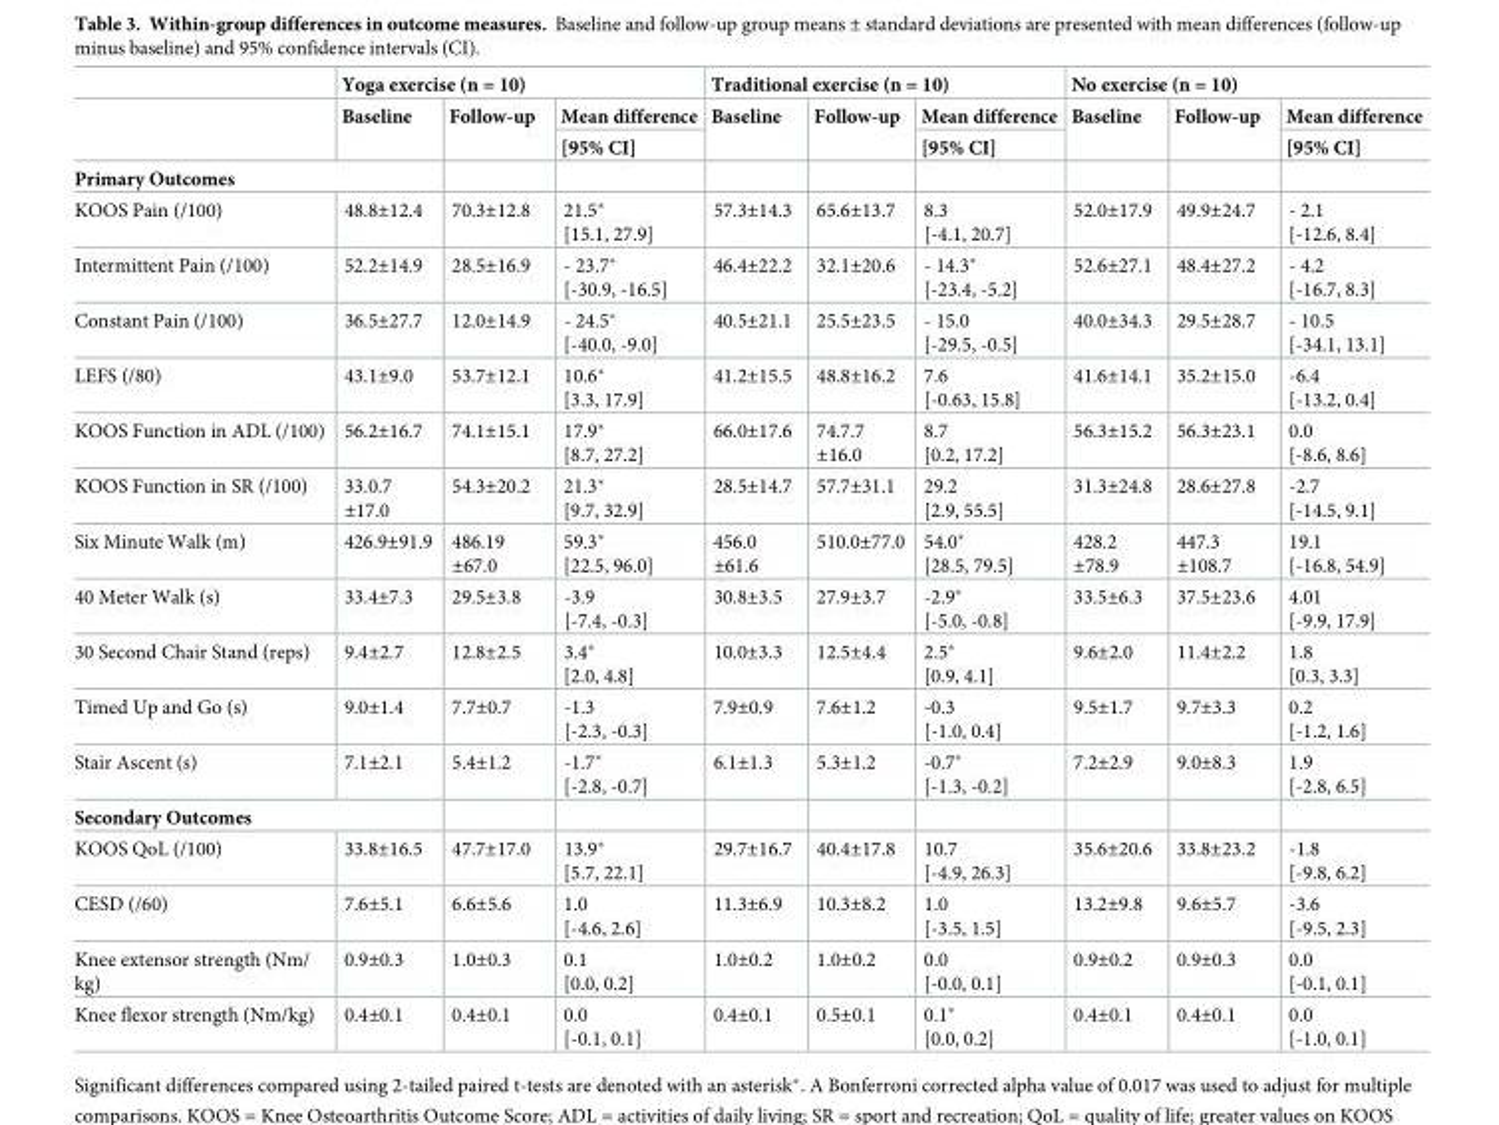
<table><thead><tr><td rowspan="3"></td><td colspan="3">Yoga exercise (n = 10)</td><td colspan="3">Traditional exercise (n = 10)</td><td colspan="3">No exercise (n = 10)</td></tr><tr><td rowspan="2">Baseline</td><td rowspan="2">Follow-up</td><td rowspan="2">Mean difference [95% CI]</td><td rowspan="2">Baseline</td><td rowspan="2">Follow-up</td><td rowspan="2">Mean difference [95% CI]</td><td rowspan="2">Baseline</td><td rowspan="2">Follow-up</td><td rowspan="2">Mean difference [95% CI]</td></tr><tr></tr></thead><tbody><tr><td colspan="10">Primary Outcomes</td></tr><tr><td>KOOS Pain (/100)</td><td>48.8±12.4</td><td>70.3±12.8</td><td>21.5* [15.1, 27.9]</td><td>57.3±14.3</td><td>65.6±13.7</td><td>8.3 [-4.1, 20.7]</td><td>52.0±17.9</td><td>49.9±24.7</td><td>- 2.1 [-12.6, 8.4]</td></tr><tr><td>Intermittent Pain (/100)</td><td>52.2±14.9</td><td>28.5±16.9</td><td>- 23.7* [-30.9, -16.5]</td><td>46.4±22.2</td><td>32.1±20.6</td><td>- 14.3* [-23.4, -5.2]</td><td>52.6±27.1</td><td>48.4±27.2</td><td>- 4.2 [-16.7, 8.3]</td></tr><tr><td>Constant Pain (/100)</td><td>36.5±27.7</td><td>12.0±14.9</td><td>- 24.5* [-40.0, -9.0]</td><td>40.5±21.1</td><td>25.5±23.5</td><td>- 15.0 [-29.5, -0.5]</td><td>40.0±34.3</td><td>29.5±28.7</td><td>- 10.5 [-34.1, 13.1]</td></tr><tr><td>LEFS (/80)</td><td>43.1±9.0</td><td>53.7±12.1</td><td>10.6* [3.3, 17.9]</td><td>41.2±15.5</td><td>48.8±16.2</td><td>7.6 [-0.63, 15.8]</td><td>41.6±14.1</td><td>35.2±15.0</td><td>-6.4 [-13.2, 0.4]</td></tr><tr><td>KOOS Function in ADL (/100)</td><td>56.2±16.7</td><td>74.1±15.1</td><td>17.9* [8.7, 27.2]</td><td>66.0±17.6</td><td>74.7.7 ±16.0</td><td>8.7 [0.2, 17.2]</td><td>56.3±15.2</td><td>56.3±23.1</td><td>0.0 [-8.6, 8.6]</td></tr><tr><td>KOOS Function in SR (/100)</td><td>33.0.7 ±17.0</td><td>54.3±20.2</td><td>21.3* [9.7, 32.9]</td><td>28.5±14.7</td><td>57.7±31.1</td><td>29.2 [2.9, 55.5]</td><td>31.3±24.8</td><td>28.6±27.8</td><td>-2.7 [-14.5, 9.1]</td></tr><tr><td>Six Minute Walk (m)</td><td>426.9±91.9</td><td>486.19 ±67.0</td><td>59.3* [22.5, 96.0]</td><td>456.0 ±61.6</td><td>510.0±77.0</td><td>54.0* [28.5, 79.5]</td><td>428.2 ±78.9</td><td>447.3 ±108.7</td><td>19.1 [-16.8, 54.9]</td></tr><tr><td>40 Meter Walk (s)</td><td>33.4±7.3</td><td>29.5±3.8</td><td>-3.9 [-7.4, -0.3]</td><td>30.8±3.5</td><td>27.9±3.7</td><td>-2.9* [-5.0, -0.8]</td><td>33.5±6.3</td><td>37.5±23.6</td><td>4.01 [-9.9, 17.9]</td></tr><tr><td>30 Second Chair Stand (reps)</td><td>9.4±2.7</td><td>12.8±2.5</td><td>3.4* [2.0, 4.8]</td><td>10.0±3.3</td><td>12.5±4.4</td><td>2.5* [0.9, 4.1]</td><td>9.6±2.0</td><td>11.4±2.2</td><td>1.8 [0.3, 3.3]</td></tr><tr><td>Timed Up and Go (s)</td><td>9.0±1.4</td><td>7.7±0.7</td><td>-1.3 [-2.3, -0.3]</td><td>7.9±0.9</td><td>7.6±1.2</td><td>-0.3 [-1.0, 0.4]</td><td>9.5±1.7</td><td>9.7±3.3</td><td>0.2 [-1.2, 1.6]</td></tr><tr><td>Stair Ascent (s)</td><td>7.1±2.1</td><td>5.4±1.2</td><td>-1.7* [-2.8, -0.7]</td><td>6.1±1.3</td><td>5.3±1.2</td><td>-0.7* [-1.3, -0.2]</td><td>7.2±2.9</td><td>9.0±8.3</td><td>1.9 [-2.8, 6.5]</td></tr><tr><td colspan="10">Secondary Outcomes</td></tr><tr><td>KOOS QoL (/100)</td><td>33.8±16.5</td><td>47.7±17.0</td><td>13.9* [5.7, 22.1]</td><td>29.7±16.7</td><td>40.4±17.8</td><td>10.7 [-4.9, 26.3]</td><td>35.6±20.6</td><td>33.8±23.2</td><td>-1.8 [-9.8, 6.2]</td></tr><tr><td>CESD (/60)</td><td>7.6±5.1</td><td>6.6±5.6</td><td>1.0 [-4.6, 2.6]</td><td>11.3±6.9</td><td>10.3±8.2</td><td>1.0 [-3.5, 1.5]</td><td>13.2±9.8</td><td>9.6±5.7</td><td>-3.6 [-9.5, 2.3]</td></tr><tr><td>Knee extensor strength (Nm/ kg)</td><td>0.9±0.3</td><td>1.0±0.3</td><td>0.1 [0.0, 0.2]</td><td>1.0±0.2</td><td>1.0±0.2</td><td>0.0 [-0.0, 0.1]</td><td>0.9±0.2</td><td>0.9±0.3</td><td>0.0 [-0.1, 0.1]</td></tr><tr><td>Knee flexor strength (Nm/kg)</td><td>0.4±0.1</td><td>0.4±0.1</td><td>0.0 [-0.1, 0.1]</td><td>0.4±0.1</td><td>0.5±0.1</td><td>0.1* [0.0, 0.2]</td><td>0.4±0.1</td><td>0.4±0.1</td><td>0.0 [-1.0, 0.1]</td></tr></tbody></table>